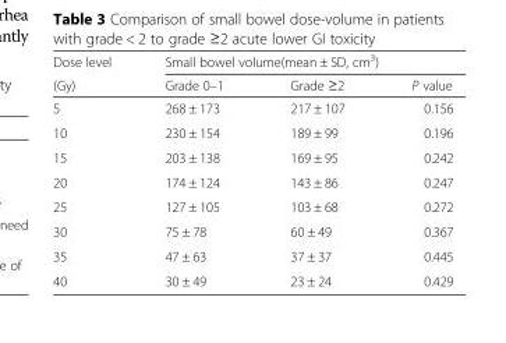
<table><thead><tr><td rowspan="2">Dose level (Gy)</td><td colspan="3">Small bowel volume(mean ± SD, cm<sup>3</sup>)</td></tr><tr><td>Grade 0–1</td><td>Grade ≥2</td><td>P value</td></tr></thead><tbody><tr><td>5</td><td>268 ± 173</td><td>217 ± 107</td><td>0.156</td></tr><tr><td>10</td><td>230 ± 154</td><td>189 ± 99</td><td>0.196</td></tr><tr><td>15</td><td>203 ± 138</td><td>169 ± 95</td><td>0.242</td></tr><tr><td>20</td><td>174 ± 124</td><td>143 ± 86</td><td>0.247</td></tr><tr><td>25</td><td>127 ± 105</td><td>103 ± 68</td><td>0.272</td></tr><tr><td>30</td><td>75 ± 78</td><td>60 ± 49</td><td>0.367</td></tr><tr><td>35</td><td>47 ± 63</td><td>37 ± 37</td><td>0.445</td></tr><tr><td>40</td><td>30 ± 49</td><td>23 ± 24</td><td>0.429</td></tr></tbody></table>